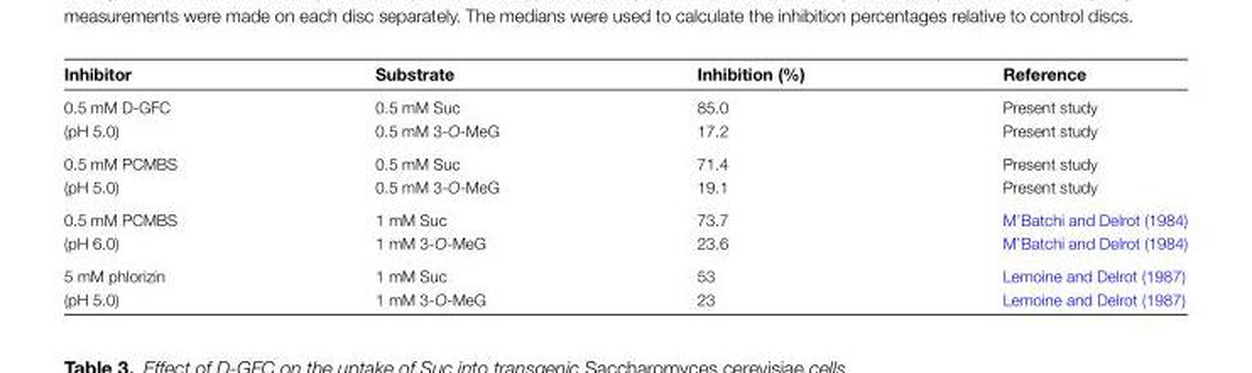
<table><thead><tr><td>Inhibitor</td><td>Substrate</td><td>Inhibition (%)</td><td>Reference</td></tr></thead><tbody><tr><td rowspan="2">0.5 mM D-GFC (pH 5.0)</td><td>0.5 mM Suc</td><td>85.0</td><td>Present study</td></tr><tr><td>0.5 mM 3-O-MeG</td><td>17.2</td><td>Present study</td></tr><tr><td rowspan="2">0.5 mM PCMBS (pH 5.0)</td><td>0.5 mM Suc</td><td>71.4</td><td>Present study</td></tr><tr><td>0.5 mM 3-O-MeG</td><td>19.1</td><td>Present study</td></tr><tr><td rowspan="2">0.5 mM PCMBS (pH 6.0)</td><td>1 mM Suc</td><td>73.7</td><td>M’Batchi and Delrot (1984)</td></tr><tr><td>1 mM 3-O-MeG</td><td>23.6</td><td>M’Batchi and Delrot (1984)</td></tr><tr><td rowspan="2">5 mM phlorizin (pH 5.0)</td><td>1 mM Suc</td><td>53</td><td>Lemoine and Delrot (1987)</td></tr><tr><td>1 mM 3-O-MeG</td><td>23</td><td>Lemoine and Delrot (1987)</td></tr></tbody></table>